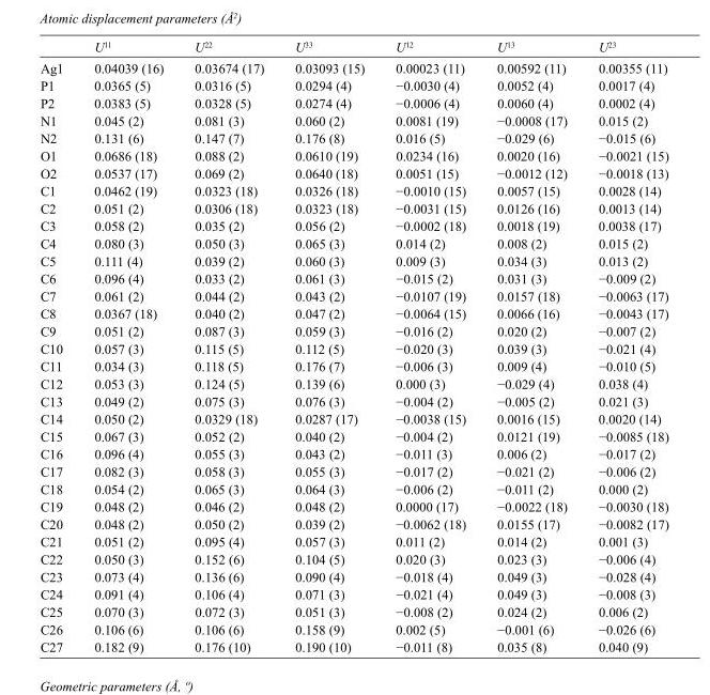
<table><thead><tr><td></td><td>U<sup>11</sup></td><td>U<sup>22</sup></td><td>U<sup>33</sup></td><td>U<sup>12</sup></td><td>U<sup>13</sup></td><td>U<sup>23</sup></td></tr></thead><tbody><tr><td>Ag1</td><td>0.04039 (16)</td><td>0.03674 (17)</td><td>0.03093 (15)</td><td>0.00023 (11)</td><td>0.00592 (11)</td><td>0.00355 (11)</td></tr><tr><td>P1</td><td>0.0365 (5)</td><td>0.0316 (5)</td><td>0.0294 (4)</td><td>−0.0030 (4)</td><td>0.0052 (4)</td><td>0.0017 (4)</td></tr><tr><td>P2</td><td>0.0383 (5)</td><td>0.0328 (5)</td><td>0.0274 (4)</td><td>−0.0006 (4)</td><td>0.0060 (4)</td><td>0.0002 (4)</td></tr><tr><td>N1</td><td>0.045 (2)</td><td>0.081 (3)</td><td>0.060 (2)</td><td>0.0081 (19)</td><td>−0.0008 (17)</td><td>0.015 (2)</td></tr><tr><td>N2</td><td>0.131 (6)</td><td>0.147 (7)</td><td>0.176 (8)</td><td>0.016 (5)</td><td>−0.029 (6)</td><td>−0.015 (6)</td></tr><tr><td>O1</td><td>0.0686 (18)</td><td>0.088 (2)</td><td>0.0610 (19)</td><td>0.0234 (16)</td><td>0.0020 (16)</td><td>−0.0021 (15)</td></tr><tr><td>O2</td><td>0.0537 (17)</td><td>0.069 (2)</td><td>0.0640 (18)</td><td>0.0051 (15)</td><td>−0.0012 (12)</td><td>−0.0018 (13)</td></tr><tr><td>C1</td><td>0.0462 (19)</td><td>0.0323 (18)</td><td>0.0326 (18)</td><td>−0.0010 (15)</td><td>0.0057 (15)</td><td>0.0028 (14)</td></tr><tr><td>C2</td><td>0.051 (2)</td><td>0.0306 (18)</td><td>0.0323 (18)</td><td>−0.0031 (15)</td><td>0.0126 (16)</td><td>0.0013 (14)</td></tr><tr><td>C3</td><td>0.058 (2)</td><td>0.035 (2)</td><td>0.056 (2)</td><td>−0.0002 (18)</td><td>0.0018 (19)</td><td>0.0038 (17)</td></tr><tr><td>C4</td><td>0.080 (3)</td><td>0.050 (3)</td><td>0.065 (3)</td><td>0.014 (2)</td><td>0.008 (2)</td><td>0.015 (2)</td></tr><tr><td>C5</td><td>0.111 (4)</td><td>0.039 (2)</td><td>0.060 (3)</td><td>0.009 (3)</td><td>0.034 (3)</td><td>0.013 (2)</td></tr><tr><td>C6</td><td>0.096 (4)</td><td>0.033 (2)</td><td>0.061 (3)</td><td>−0.015 (2)</td><td>0.031 (3)</td><td>−0.009 (2)</td></tr><tr><td>C7</td><td>0.061 (2)</td><td>0.044 (2)</td><td>0.043 (2)</td><td>−0.0107 (19)</td><td>0.0157 (18)</td><td>−0.0063 (17)</td></tr><tr><td>C8</td><td>0.0367 (18)</td><td>0.040 (2)</td><td>0.047 (2)</td><td>−0.0064 (15)</td><td>0.0066 (16)</td><td>−0.0043 (17)</td></tr><tr><td>C9</td><td>0.051 (2)</td><td>0.087 (3)</td><td>0.059 (3)</td><td>−0.016 (2)</td><td>0.020 (2)</td><td>−0.007 (2)</td></tr><tr><td>C10</td><td>0.057 (3)</td><td>0.115 (5)</td><td>0.112 (5)</td><td>−0.020 (3)</td><td>0.039 (3)</td><td>−0.021 (4)</td></tr><tr><td>C11</td><td>0.034 (3)</td><td>0.118 (5)</td><td>0.176 (7)</td><td>−0.006 (3)</td><td>0.009 (4)</td><td>−0.010 (5)</td></tr><tr><td>C12</td><td>0.053 (3)</td><td>0.124 (5)</td><td>0.139 (6)</td><td>0.000 (3)</td><td>−0.029 (4)</td><td>0.038 (4)</td></tr><tr><td>C13</td><td>0.049 (2)</td><td>0.075 (3)</td><td>0.076 (3)</td><td>−0.004 (2)</td><td>−0.005 (2)</td><td>0.021 (3)</td></tr><tr><td>C14</td><td>0.050 (2)</td><td>0.0329 (18)</td><td>0.0287 (17)</td><td>−0.0038 (15)</td><td>0.0016 (15)</td><td>0.0020 (14)</td></tr><tr><td>C15</td><td>0.067 (3)</td><td>0.052 (2)</td><td>0.040 (2)</td><td>−0.004 (2)</td><td>0.0121 (19)</td><td>−0.0085 (18)</td></tr><tr><td>C16</td><td>0.096 (4)</td><td>0.055 (3)</td><td>0.043 (2)</td><td>−0.011 (3)</td><td>0.006 (2)</td><td>−0.017 (2)</td></tr><tr><td>C17</td><td>0.082 (3)</td><td>0.058 (3)</td><td>0.055 (3)</td><td>−0.017 (2)</td><td>−0.021 (2)</td><td>−0.006 (2)</td></tr><tr><td>C18</td><td>0.054 (2)</td><td>0.065 (3)</td><td>0.064 (3)</td><td>−0.006 (2)</td><td>−0.011 (2)</td><td>0.000 (2)</td></tr><tr><td>C19</td><td>0.048 (2)</td><td>0.046 (2)</td><td>0.048 (2)</td><td>0.0000 (17)</td><td>−0.0022 (18)</td><td>−0.0030 (18)</td></tr><tr><td>C20</td><td>0.048 (2)</td><td>0.050 (2)</td><td>0.039 (2)</td><td>−0.0062 (18)</td><td>0.0155 (17)</td><td>−0.0082 (17)</td></tr><tr><td>C21</td><td>0.051 (2)</td><td>0.095 (4)</td><td>0.057 (3)</td><td>0.011 (2)</td><td>0.014 (2)</td><td>0.001 (3)</td></tr><tr><td>C22</td><td>0.050 (3)</td><td>0.152 (6)</td><td>0.104 (5)</td><td>0.020 (3)</td><td>0.023 (3)</td><td>−0.006 (4)</td></tr><tr><td>C23</td><td>0.073 (4)</td><td>0.136 (6)</td><td>0.090 (4)</td><td>−0.018 (4)</td><td>0.049 (3)</td><td>−0.028 (4)</td></tr><tr><td>C24</td><td>0.091 (4)</td><td>0.106 (4)</td><td>0.071 (3)</td><td>−0.021 (4)</td><td>0.049 (3)</td><td>−0.008 (3)</td></tr><tr><td>C25</td><td>0.070 (3)</td><td>0.072 (3)</td><td>0.051 (3)</td><td>−0.008 (2)</td><td>0.024 (2)</td><td>0.006 (2)</td></tr><tr><td>C26</td><td>0.106 (6)</td><td>0.106 (6)</td><td>0.158 (9)</td><td>0.002 (5)</td><td>−0.001 (6)</td><td>−0.026 (6)</td></tr><tr><td>C27</td><td>0.182 (9)</td><td>0.176 (10)</td><td>0.190 (10)</td><td>−0.011 (8)</td><td>0.035 (8)</td><td>0.040 (9)</td></tr></tbody></table>